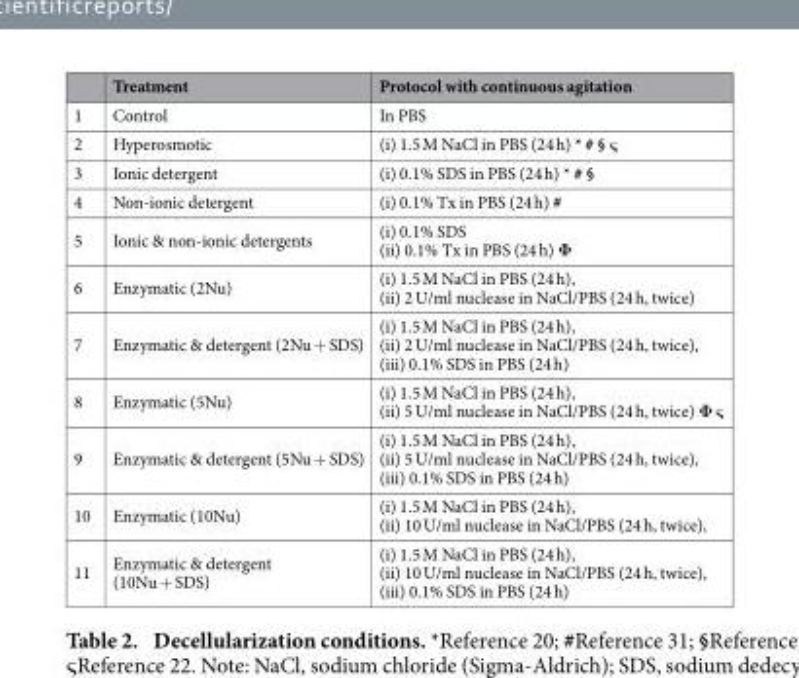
<table><thead><tr><td></td><td>Treatment</td><td>Protocol with continuous agitation</td></tr></thead><tbody><tr><td>1</td><td>Control</td><td>In PBS</td></tr><tr><td>2</td><td>Hyperosmotic</td><td>(i) 1.5 M NaCl in PBS (24 h) * # § ς</td></tr><tr><td>3</td><td>Ionic detergent</td><td>(i) 0.1% SDS in PBS (24 h) * # §</td></tr><tr><td>4</td><td>Non-ionic detergent</td><td>(i) 0.1% Tx in PBS (24 h) #</td></tr><tr><td>5</td><td>Ionic &amp; non-ionic detergents</td><td>(i) 0.1% SDS (ii) 0.1% Tx in PBS (24 h) Φ</td></tr><tr><td>6</td><td>Enzymatic (2Nu)</td><td>(i) 1.5 M NaCl in PBS (24 h), (ii) 2 U/ml nuclease in NaCl/PBS (24 h, twice)</td></tr><tr><td>7</td><td>Enzymatic &amp; detergent (2Nu + SDS)</td><td>(i) 1.5 M NaCl in PBS (24 h), (ii) 2 U/ml nuclease in NaCl/PBS (24 h, twice), (iii) 0.1% SDS in PBS (24 h)</td></tr><tr><td>8</td><td>Enzymatic (5Nu)</td><td>(i) 1.5 M NaCl in PBS (24 h), (ii) 5 U/ml nuclease in NaCl/PBS (24 h, twice) Φ ς</td></tr><tr><td>9</td><td>Enzymatic &amp; detergent (5Nu + SDS)</td><td>(i) 1.5 M NaCl in PBS (24 h), (ii) 5 U/ml nuclease in NaCl/PBS (24 h, twice), (iii) 0.1% SDS in PBS (24 h)</td></tr><tr><td>10</td><td>Enzymatic (10Nu)</td><td>(i) 1.5 M NaCl in PBS (24 h), (ii) 10 U/ml nuclease in NaCl/PBS (24 h, twice),</td></tr><tr><td>11</td><td>Enzymatic &amp; detergent (10Nu + SDS)</td><td>(i) 1.5 M NaCl in PBS (24 h), (ii) 10 U/ml nuclease in NaCl/PBS (24 h, twice), (iii) 0.1% SDS in PBS (24 h)</td></tr></tbody></table>